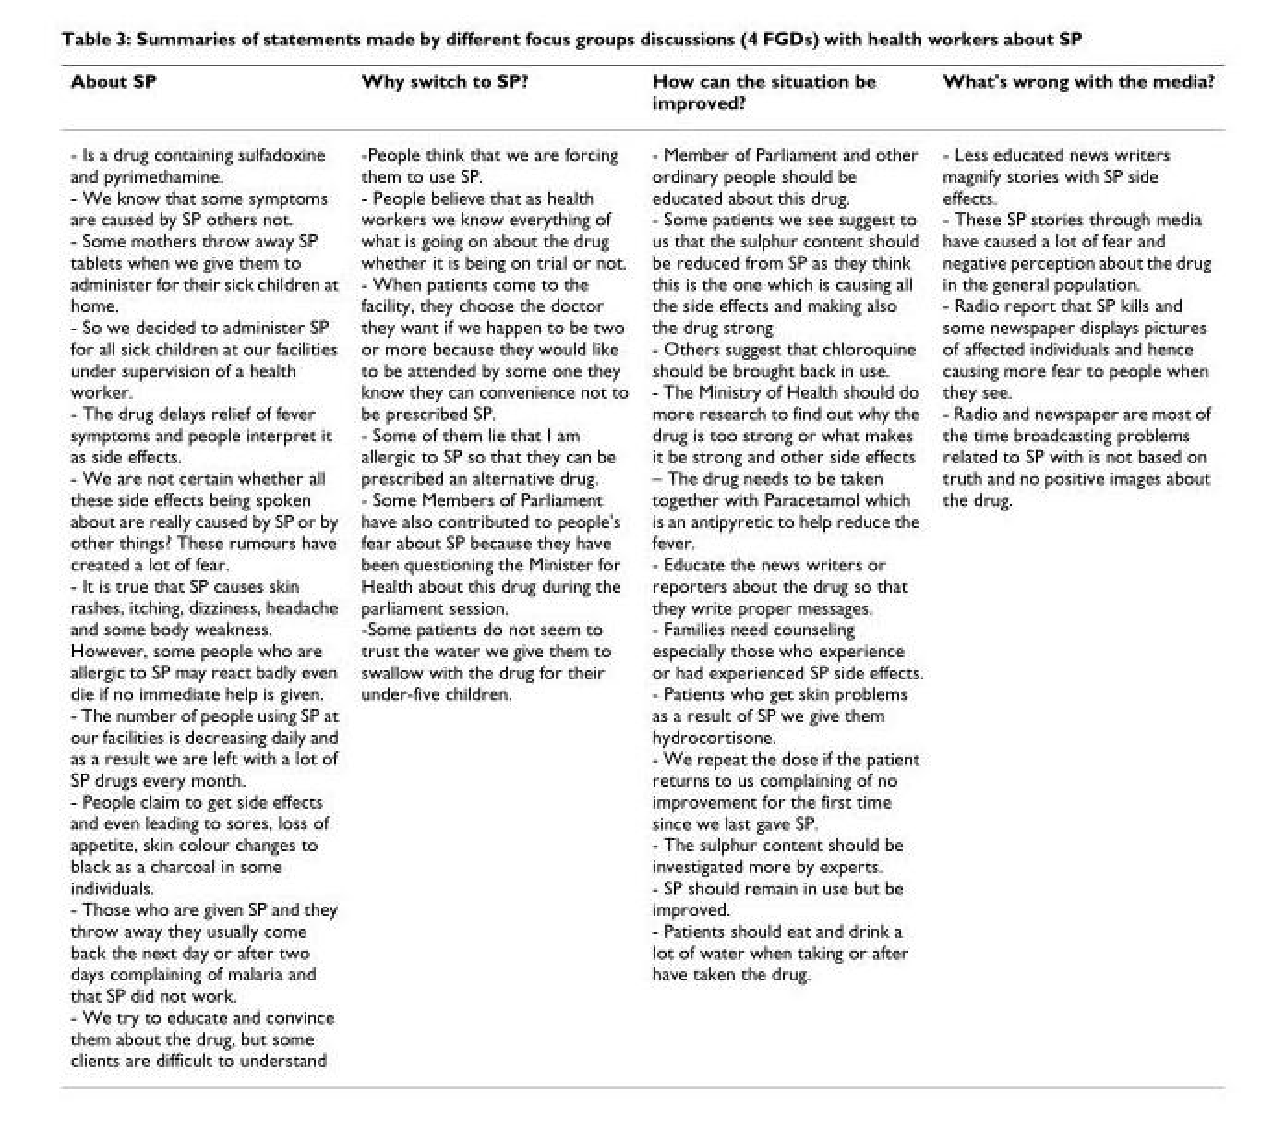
<table><thead><tr><td>About SP</td><td>Why switch to SP?</td><td>How can the situation be improved?</td><td>What&#x27;s wrong with the media?</td></tr></thead><tbody><tr><td>- Is a drug containing sulfadoxine and pyrimethamine. - We know that some symptoms are caused by SP others not. - Some mothers throw away SP tablets when we give them to administer for their sick children at home. - So we decided to administer SP for all sick children at our facilities under supervision of a health worker. - The drug delays relief of fever symptoms and people interpret it as side effects. - We are not certain whether all these side effects being spoken about are really caused by SP or by other things? These rumours have created a lot of fear. - It is true that SP causes skin rashes, itching, dizziness, headache and some body weakness. However, some people who are allergic to SP may react badly even die if no immediate help is given. - The number of people using SP at our facilities is decreasing daily and as a result we are left with a lot of SP drugs every month. - People claim to get side effects and even leading to sores, loss of appetite, skin colour changes to black as a charcoal in some individuals. - Those who are given SP and they throw away they usually come back the next day or after two days complaining of malaria and that SP did not work. - We try to educate and convince them about the drug, but some clients are difficult to understand</td><td>-People think that we are forcing them to use SP. - People believe that as health workers we know everything of what is going on about the drug whether it is being on trial or not. - When patients come to the facility, they choose the doctor they want if we happen to be two or more because they would like to be attended by some one they know they can convenience not to be prescribed SP. - Some of them lie that I am allergic to SP so that they can be prescribed an alternative drug. - Some Members of Parliament have also contributed to people&#x27;s fear about SP because they have been questioning the Minister for Health about this drug during the parliament session. -Some patients do not seem to trust the water we give them to swallow with the drug for their under-five children.</td><td>- Member of Parliament and other ordinary people should be educated about this drug. - Some patients we see suggest to us that the sulphur content should be reduced from SP as they think this is the one which is causing all the side effects and making also the drug strong - Others suggest that chloroquine should be brought back in use. - The Ministry of Health should do more research to find out why the drug is too strong or what makes it be strong and other side effects – The drug needs to be taken together with Paracetamol which is an antipyretic to help reduce the fever. - Educate the news writers or reporters about the drug so that they write proper messages. - Families need counseling especially those who experience or had experienced SP side effects. - Patients who get skin problems as a result of SP we give them hydrocortisone. - We repeat the dose if the patient returns to us complaining of no improvement for the first time since we last gave SP. - The sulphur content should be investigated more by experts. - SP should remain in use but be improved. - Patients should eat and drink a lot of water when taking or after have taken the drug.</td><td>- Less educated news writers magnify stories with SP side effects. - These SP stories through media have caused a lot of fear and negative perception about the drug in the general population. - Radio report that SP kills and some newspaper displays pictures of affected individuals and hence causing more fear to people when they see. - Radio and newspaper are most of the time broadcasting problems related to SP with is not based on truth and no positive images about the drug.</td></tr></tbody></table>